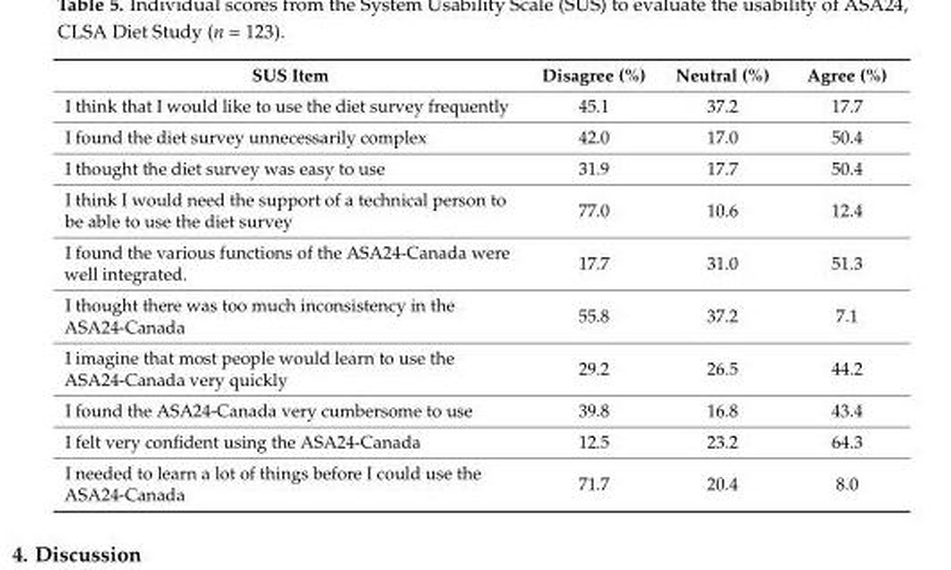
<table><thead><tr><td>SUS Item</td><td>Disagree (%)</td><td>Neutral (%)</td><td>Agree (%)</td></tr></thead><tbody><tr><td>I think that I would like to use the diet survey frequently</td><td>45.1</td><td>37.2</td><td>17.7</td></tr><tr><td>I found the diet survey unnecessarily complex</td><td>42.0</td><td>17.0</td><td>50.4</td></tr><tr><td>I thought the diet survey was easy to use</td><td>31.9</td><td>17.7</td><td>50.4</td></tr><tr><td>I think I would need the support of a technical person to be able to use the diet survey</td><td>77.0</td><td>10.6</td><td>12.4</td></tr><tr><td>I found the various functions of the ASA24-Canada were well integrated.</td><td>17.7</td><td>31.0</td><td>51.3</td></tr><tr><td>I thought there was too much inconsistency in the ASA24-Canada</td><td>55.8</td><td>37.2</td><td>7.1</td></tr><tr><td>I imagine that most people would learn to use the ASA24-Canada very quickly</td><td>29.2</td><td>26.5</td><td>44.2</td></tr><tr><td>I found the ASA24-Canada very cumbersome to use</td><td>39.8</td><td>16.8</td><td>43.4</td></tr><tr><td>I felt very confident using the ASA24-Canada</td><td>12.5</td><td>23.2</td><td>64.3</td></tr><tr><td>I needed to learn a lot of things before I could use the ASA24-Canada</td><td>71.7</td><td>20.4</td><td>8.0</td></tr></tbody></table>